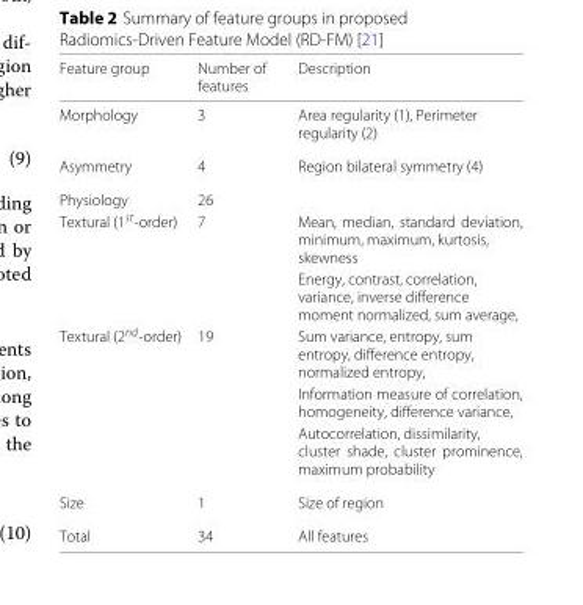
<table><thead><tr><td>Feature group</td><td>Number of features</td><td>Description</td></tr></thead><tbody><tr><td>Morphology</td><td>3</td><td>Area regularity (1), Perimeter regularity (2)</td></tr><tr><td>Asymmetry</td><td>4</td><td>Region bilateral symmetry (4)</td></tr><tr><td>Physiology</td><td>26</td><td></td></tr><tr><td rowspan="2">Textural (1<sup>st</sup>-order)</td><td>7</td><td>Mean, median, standard deviation, minimum, maximum, kurtosis, skewness</td></tr><tr><td></td><td>Energy, contrast, correlation, variance, inverse difference moment normalized, sum average,</td></tr><tr><td rowspan="3">Textural (2<sup>nd</sup>-order)</td><td>19</td><td>Sum variance, entropy, sum entropy, difference entropy, normalized entropy,</td></tr><tr><td></td><td>Information measure of correlation, homogeneity, difference variance,</td></tr><tr><td></td><td>Autocorrelation, dissimilarity, cluster shade, cluster prominence, maximum probability</td></tr><tr><td>Size</td><td>1</td><td>Size of region</td></tr><tr><td>Total</td><td>34</td><td>All features</td></tr></tbody></table>